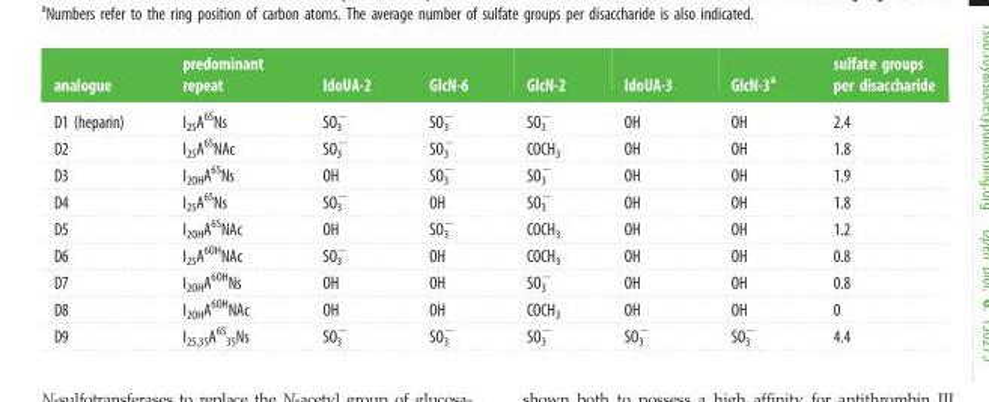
<table><thead><tr><td>analogue</td><td>predominant repeat</td><td>IdoUA-2</td><td>GlcN-6</td><td>GlcN-2</td><td>IdoUA-3</td><td>GlcN-3<sup>a</sup></td><td>sulfate groups per disaccharide</td></tr></thead><tbody><tr><td>D1 (heparin)</td><td>I<sub>2S</sub>A<sup>6S</sup>Ns</td><td>SO<sub>3</sub> <sup>−</sup></td><td>SO<sub>3</sub> <sup>−</sup></td><td>SO<sub>3</sub> <sup>−</sup></td><td>OH</td><td>OH</td><td>2.4</td></tr><tr><td>D2</td><td>I<sub>2S</sub>A<sup>6S</sup>NAc</td><td>SO<sub>3</sub> <sup>−</sup></td><td>SO<sub>3</sub> <sup>−</sup></td><td>COCH<sub>3</sub></td><td>OH</td><td>OH</td><td>1.8</td></tr><tr><td>D3</td><td>I<sub>2OH</sub>A<sup>6S</sup>Ns</td><td>OH</td><td>SO<sub>3</sub> <sup>−</sup></td><td>SO<sub>3</sub> <sup>−</sup></td><td>OH</td><td>OH</td><td>1.9</td></tr><tr><td>D4</td><td>I<sub>2S</sub>A<sup>6S</sup>Ns</td><td>SO<sub>3</sub> <sup>−</sup></td><td>OH</td><td>SO<sub>3</sub> <sup>−</sup></td><td>OH</td><td>OH</td><td>1.8</td></tr><tr><td>D5</td><td>I<sub>2OH</sub>A<sup>6S</sup>NAc</td><td>OH</td><td>SO<sub>3</sub> <sup>−</sup></td><td>COCH<sub>3</sub></td><td>OH</td><td>OH</td><td>1.2</td></tr><tr><td>D6</td><td>I<sub>2S</sub>A<sup>6OH</sup>NAc</td><td>SO<sub>3</sub> <sup>−</sup></td><td>OH</td><td>COCH<sub>3</sub></td><td>OH</td><td>OH</td><td>0.8</td></tr><tr><td>D7</td><td>I<sub>2OH</sub>A<sup>6OH</sup>Ns</td><td>OH</td><td>OH</td><td>SO<sub>3</sub> <sup>−</sup></td><td>OH</td><td>OH</td><td>0.8</td></tr><tr><td>D8</td><td>I<sub>2OH</sub>A<sup>6OH</sup>NAc</td><td>OH</td><td>OH</td><td>COCH<sub>3</sub></td><td>OH</td><td>OH</td><td>0</td></tr><tr><td>D9</td><td>I<sub>2S,3S</sub>A<sup>6S</sup> <sub>3S</sub>Ns</td><td>SO<sub>3</sub> <sup>−</sup></td><td>SO<sub>3</sub> <sup>−</sup></td><td>SO<sub>3</sub> <sup>−</sup></td><td>SO<sub>3</sub> <sup>−</sup></td><td>SO<sub>3</sub> <sup>−</sup></td><td>4.4</td></tr></tbody></table>